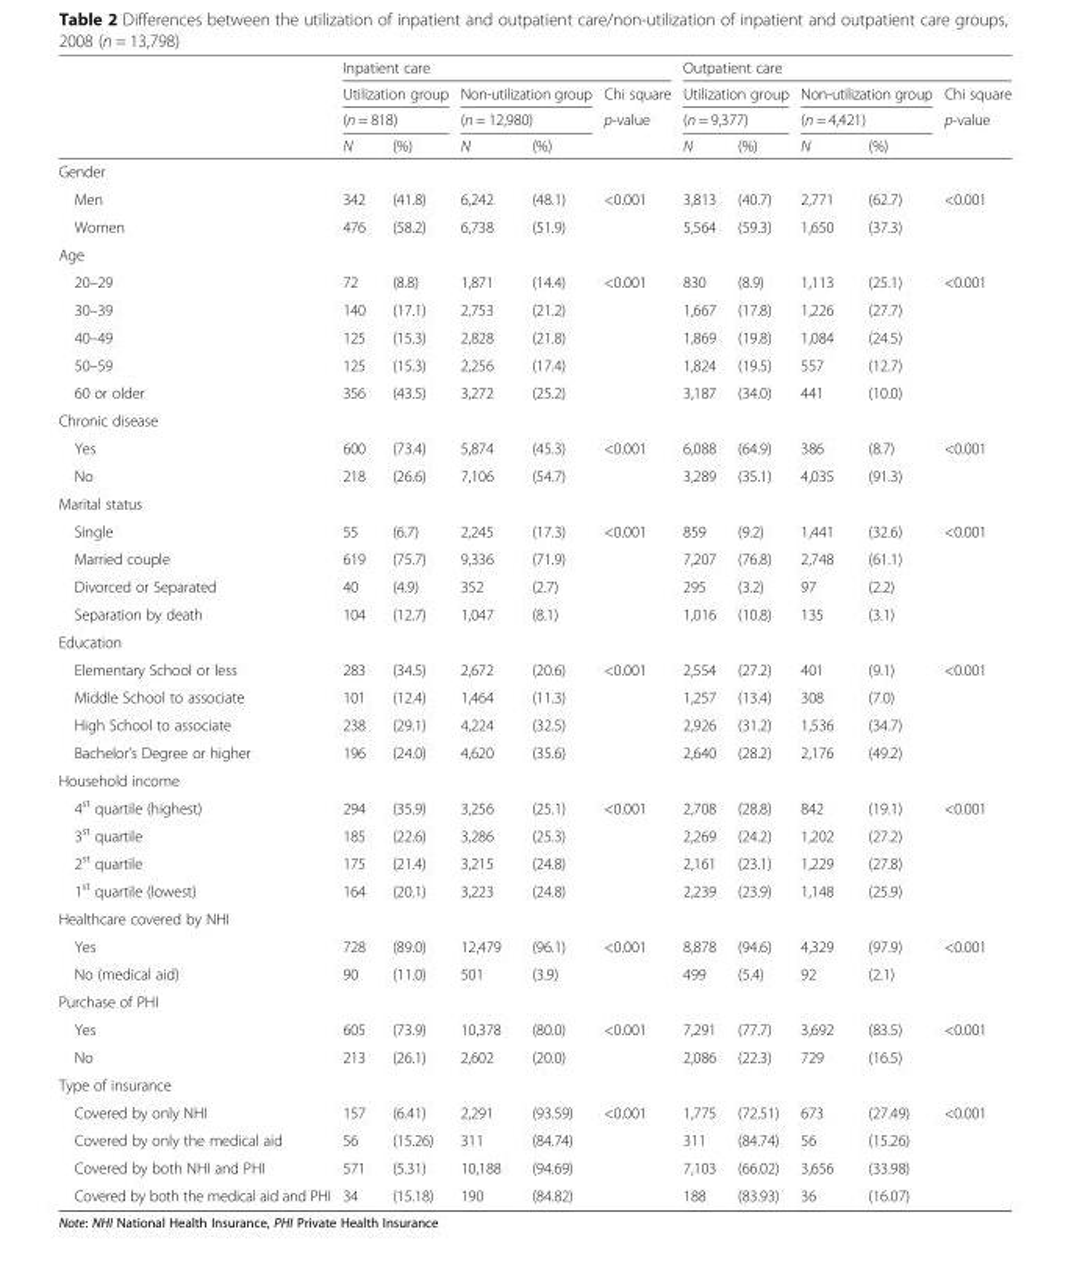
<table><thead><tr><td rowspan="4"></td><td colspan="5">Inpatient care</td><td colspan="5">Outpatient care</td></tr><tr><td rowspan="2" colspan="2">Utilization group (n = 818)</td><td rowspan="2" colspan="2">Non-utilization group (n = 12,980)</td><td rowspan="3">Chi square p-value</td><td rowspan="2" colspan="2">Utilization group (n = 9,377)</td><td rowspan="2" colspan="2">Non-utilization group (n = 4,421)</td><td rowspan="3">Chi square p-value</td></tr><tr></tr><tr><td>N</td><td>(%)</td><td>N</td><td>(%)</td><td>N</td><td>(%)</td><td>N</td><td>(%)</td></tr></thead><tbody><tr><td colspan="11">Gender</td></tr><tr><td>Men</td><td>342</td><td>(41.8)</td><td>6,242</td><td>(48.1)</td><td>&lt;0.001</td><td>3,813</td><td>(40.7)</td><td>2,771</td><td>(62.7)</td><td>&lt;0.001</td></tr><tr><td>Women</td><td>476</td><td>(58.2)</td><td>6,738</td><td>(51.9)</td><td></td><td>5,564</td><td>(59.3)</td><td>1,650</td><td>(37.3)</td><td></td></tr><tr><td colspan="11">Age</td></tr><tr><td>20–29</td><td>72</td><td>(8.8)</td><td>1,871</td><td>(14.4)</td><td>&lt;0.001</td><td>830</td><td>(8.9)</td><td>1,113</td><td>(25.1)</td><td>&lt;0.001</td></tr><tr><td>30–39</td><td>140</td><td>(17.1)</td><td>2,753</td><td>(21.2)</td><td></td><td>1,667</td><td>(17.8)</td><td>1,226</td><td>(27.7)</td><td></td></tr><tr><td>40–49</td><td>125</td><td>(15.3)</td><td>2,828</td><td>(21.8)</td><td></td><td>1,869</td><td>(19.8)</td><td>1,084</td><td>(24.5)</td><td></td></tr><tr><td>50–59</td><td>125</td><td>(15.3)</td><td>2,256</td><td>(17.4)</td><td></td><td>1,824</td><td>(19.5)</td><td>557</td><td>(12.7)</td><td></td></tr><tr><td>60 or older</td><td>356</td><td>(43.5)</td><td>3,272</td><td>(25.2)</td><td></td><td>3,187</td><td>(34.0)</td><td>441</td><td>(10.0)</td><td></td></tr><tr><td colspan="11">Chronic disease</td></tr><tr><td>Yes</td><td>600</td><td>(73.4)</td><td>5,874</td><td>(45.3)</td><td>&lt;0.001</td><td>6,088</td><td>(64.9)</td><td>386</td><td>(8.7)</td><td>&lt;0.001</td></tr><tr><td>No</td><td>218</td><td>(26.6)</td><td>7,106</td><td>(54.7)</td><td></td><td>3,289</td><td>(35.1)</td><td>4,035</td><td>(91.3)</td><td></td></tr><tr><td colspan="11">Marital status</td></tr><tr><td>Single</td><td>55</td><td>(6.7)</td><td>2,245</td><td>(17.3)</td><td>&lt;0.001</td><td>859</td><td>(9.2)</td><td>1,441</td><td>(32.6)</td><td>&lt;0.001</td></tr><tr><td>Married couple</td><td>619</td><td>(75.7)</td><td>9,336</td><td>(71.9)</td><td></td><td>7,207</td><td>(76.8)</td><td>2,748</td><td>(61.1)</td><td></td></tr><tr><td>Divorced or Separated</td><td>40</td><td>(4.9)</td><td>352</td><td>(2.7)</td><td></td><td>295</td><td>(3.2)</td><td>97</td><td>(2.2)</td><td></td></tr><tr><td>Separation by death</td><td>104</td><td>(12.7)</td><td>1,047</td><td>(8.1)</td><td></td><td>1,016</td><td>(10.8)</td><td>135</td><td>(3.1)</td><td></td></tr><tr><td colspan="11">Education</td></tr><tr><td>Elementary School or less</td><td>283</td><td>(34.5)</td><td>2,672</td><td>(20.6)</td><td>&lt;0.001</td><td>2,554</td><td>(27.2)</td><td>401</td><td>(9.1)</td><td>&lt;0.001</td></tr><tr><td>Middle School to associate</td><td>101</td><td>(12.4)</td><td>1,464</td><td>(11.3)</td><td></td><td>1,257</td><td>(13.4)</td><td>308</td><td>(7.0)</td><td></td></tr><tr><td>High School to associate</td><td>238</td><td>(29.1)</td><td>4,224</td><td>(32.5)</td><td></td><td>2,926</td><td>(31.2)</td><td>1,536</td><td>(34.7)</td><td></td></tr><tr><td>Bachelor’s Degree or higher</td><td>196</td><td>(24.0)</td><td>4,620</td><td>(35.6)</td><td></td><td>2,640</td><td>(28.2)</td><td>2,176</td><td>(49.2)</td><td></td></tr><tr><td colspan="11">Household income</td></tr><tr><td>4<sup>st</sup> quartile (highest)</td><td>294</td><td>(35.9)</td><td>3,256</td><td>(25.1)</td><td>&lt;0.001</td><td>2,708</td><td>(28.8)</td><td>842</td><td>(19.1)</td><td>&lt;0.001</td></tr><tr><td>3<sup>st</sup> quartile</td><td>185</td><td>(22.6)</td><td>3,286</td><td>(25.3)</td><td></td><td>2,269</td><td>(24.2)</td><td>1,202</td><td>(27.2)</td><td></td></tr><tr><td>2<sup>st</sup> quartile</td><td>175</td><td>(21.4)</td><td>3,215</td><td>(24.8)</td><td></td><td>2,161</td><td>(23.1)</td><td>1,229</td><td>(27.8)</td><td></td></tr><tr><td>1<sup>st</sup> quartile (lowest)</td><td>164</td><td>(20.1)</td><td>3,223</td><td>(24.8)</td><td></td><td>2,239</td><td>(23.9)</td><td>1,148</td><td>(25.9)</td><td></td></tr><tr><td colspan="11">Healthcare covered by NHI</td></tr><tr><td>Yes</td><td>728</td><td>(89.0)</td><td>12,479</td><td>(96.1)</td><td>&lt;0.001</td><td>8,878</td><td>(94.6)</td><td>4,329</td><td>(97.9)</td><td>&lt;0.001</td></tr><tr><td>No (medical aid)</td><td>90</td><td>(11.0)</td><td>501</td><td>(3.9)</td><td></td><td>499</td><td>(5.4)</td><td>92</td><td>(2.1)</td><td></td></tr><tr><td colspan="11">Purchase of PHI</td></tr><tr><td>Yes</td><td>605</td><td>(73.9)</td><td>10,378</td><td>(80.0)</td><td>&lt;0.001</td><td>7,291</td><td>(77.7)</td><td>3,692</td><td>(83.5)</td><td>&lt;0.001</td></tr><tr><td>No</td><td>213</td><td>(26.1)</td><td>2,602</td><td>(20.0)</td><td></td><td>2,086</td><td>(22.3)</td><td>729</td><td>(16.5)</td><td></td></tr><tr><td colspan="11">Type of insurance</td></tr><tr><td>Covered by only NHI</td><td>157</td><td>(6.41)</td><td>2,291</td><td>(93.59)</td><td>&lt;0.001</td><td>1,775</td><td>(72.51)</td><td>673</td><td>(27.49)</td><td>&lt;0.001</td></tr><tr><td>Covered by only the medical aid</td><td>56</td><td>(15.26)</td><td>311</td><td>(84.74)</td><td></td><td>311</td><td>(84.74)</td><td>56</td><td>(15.26)</td><td></td></tr><tr><td>Covered by both NHI and PHI</td><td>571</td><td>(5.31)</td><td>10,188</td><td>(94.69)</td><td></td><td>7,103</td><td>(66.02)</td><td>3,656</td><td>(33.98)</td><td></td></tr><tr><td>Covered by both the medical aid and PHI</td><td>34</td><td>(15.18)</td><td>190</td><td>(84.82)</td><td></td><td>188</td><td>(83.93)</td><td>36</td><td>(16.07)</td><td></td></tr></tbody></table>